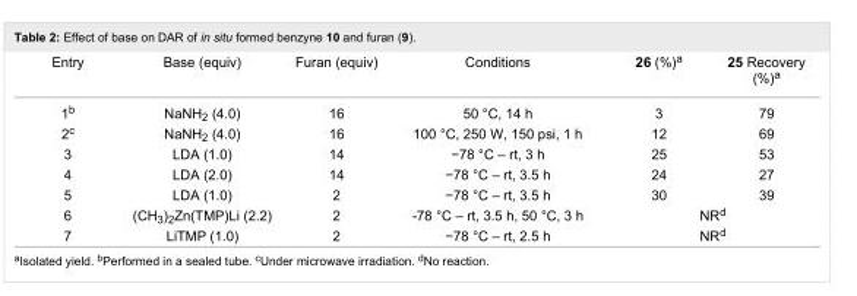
<table><tbody><tr><td>Entry</td><td>Base (equiv)</td><td>Furan (equiv)</td><td>Conditions</td><td>26 (%)<sup>a</sup></td><td>25 Recovery (%)<sup>a</sup></td></tr><tr><td>1<sup>b</sup></td><td>NaNH<sub>2</sub> (4.0)</td><td>16</td><td>50 °C, 14 h</td><td>3</td><td>79</td></tr><tr><td>2<sup>c</sup></td><td>NaNH<sub>2</sub> (4.0)</td><td>16</td><td>100 °C, 250 W, 150 psi, 1 h</td><td>12</td><td>69</td></tr><tr><td>3</td><td>LDA (1.0)</td><td>14</td><td>−78 °C – rt, 3 h</td><td>25</td><td>53</td></tr><tr><td>4</td><td>LDA (2.0)</td><td>14</td><td>−78 °C – rt, 3.5 h</td><td>24</td><td>27</td></tr><tr><td>5</td><td>LDA (1.0)</td><td>2</td><td>−78 °C – rt, 3.5 h</td><td>30</td><td>39</td></tr><tr><td>6</td><td>(CH<sub>3</sub>)<sub>2</sub>Zn(TMP)Li (2.2)</td><td>2</td><td>-78 °C – rt, 3.5 h, 50 °C, 3 h</td><td colspan="2">NR<sup>d</sup></td></tr><tr><td>7</td><td>LiTMP (1.0)</td><td>2</td><td>−78 °C – rt, 2.5 h</td><td colspan="2">NR<sup>d</sup></td></tr></tbody></table>